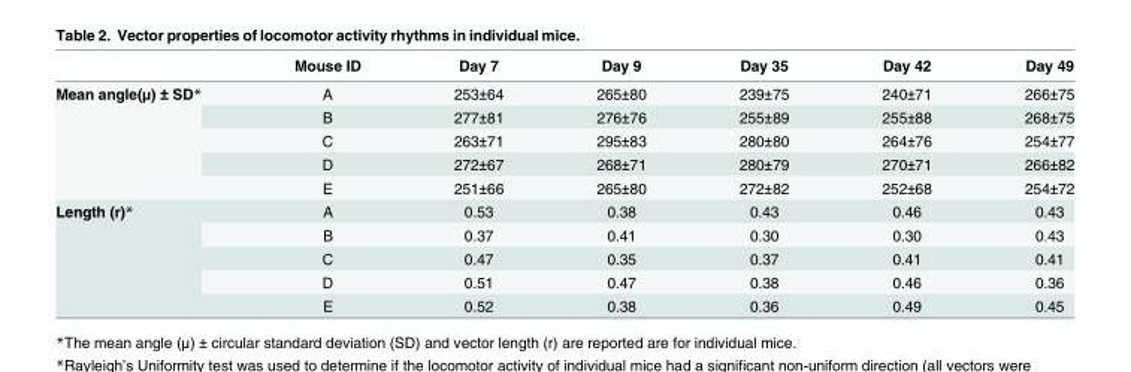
<table><thead><tr><td></td><td>Mouse ID</td><td>Day 7</td><td>Day 9</td><td>Day 35</td><td>Day 42</td><td>Day 49</td></tr></thead><tbody><tr><td rowspan="5">Mean angle(μ) ± SD*</td><td>A</td><td>253±64</td><td>265±80</td><td>239±75</td><td>240±71</td><td>266±75</td></tr><tr><td>B</td><td>277±81</td><td>276±76</td><td>255±89</td><td>255±88</td><td>268±75</td></tr><tr><td>C</td><td>263±71</td><td>295±83</td><td>280±80</td><td>264±76</td><td>254±77</td></tr><tr><td>D</td><td>272±67</td><td>268±71</td><td>280±79</td><td>270±71</td><td>266±82</td></tr><tr><td>E</td><td>251±66</td><td>265±80</td><td>272±82</td><td>252±68</td><td>254±72</td></tr><tr><td rowspan="5">Length (r)*</td><td>A</td><td>0.53</td><td>0.38</td><td>0.43</td><td>0.46</td><td>0.43</td></tr><tr><td>B</td><td>0.37</td><td>0.41</td><td>0.30</td><td>0.30</td><td>0.43</td></tr><tr><td>C</td><td>0.47</td><td>0.35</td><td>0.37</td><td>0.41</td><td>0.41</td></tr><tr><td>D</td><td>0.51</td><td>0.47</td><td>0.38</td><td>0.46</td><td>0.36</td></tr><tr><td>E</td><td>0.52</td><td>0.38</td><td>0.36</td><td>0.49</td><td>0.45</td></tr></tbody></table>